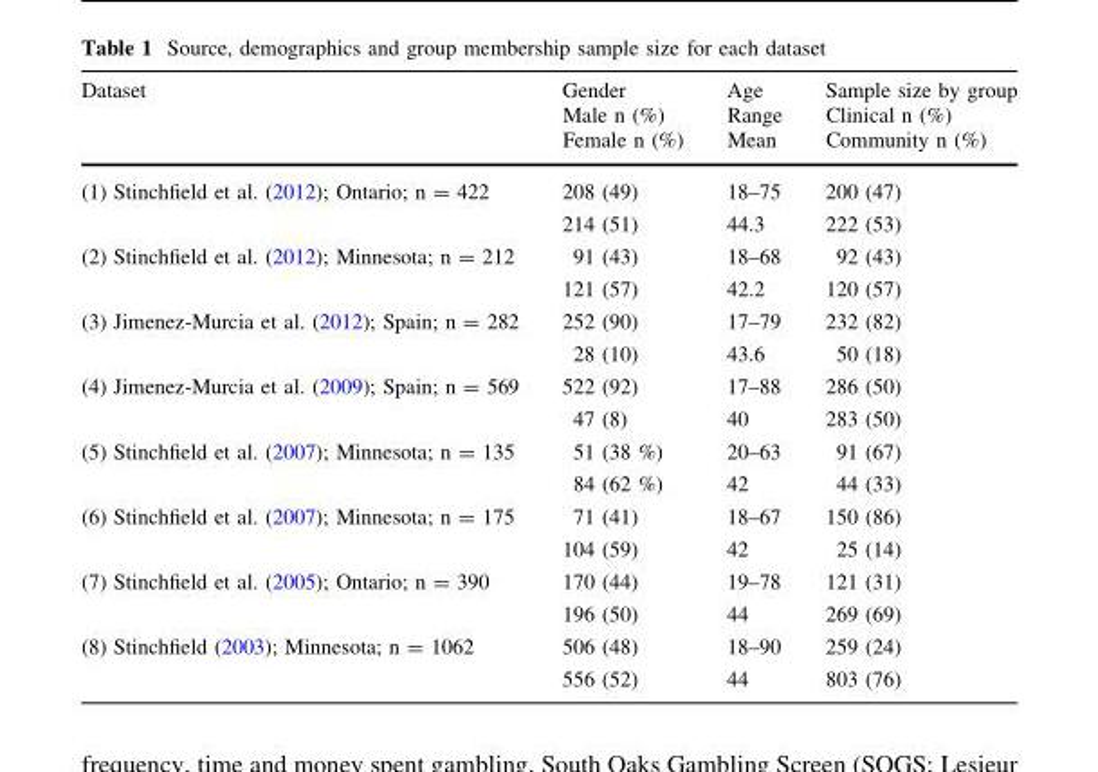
<table><thead><tr><td>Dataset</td><td>Gender Male n (%) Female n (%)</td><td>Age Range Mean</td><td>Sample size by group Clinical n (%) Community n (%)</td></tr></thead><tbody><tr><td rowspan="2">(1) Stinchfield et al. (2012); Ontario; n = 422</td><td>208 (49)</td><td>18–75</td><td>200 (47)</td></tr><tr><td>214 (51)</td><td>44.3</td><td>222 (53)</td></tr><tr><td rowspan="2">(2) Stinchfield et al. (2012); Minnesota; n = 212</td><td>91 (43)</td><td>18–68</td><td>92 (43)</td></tr><tr><td>121 (57)</td><td>42.2</td><td>120 (57)</td></tr><tr><td rowspan="2">(3) Jimenez-Murcia et al. (2012); Spain; n = 282</td><td>252 (90)</td><td>17–79</td><td>232 (82)</td></tr><tr><td>28 (10)</td><td>43.6</td><td>50 (18)</td></tr><tr><td rowspan="2">(4) Jimenez-Murcia et al. (2009); Spain; n = 569</td><td>522 (92)</td><td>17–88</td><td>286 (50)</td></tr><tr><td>47 (8)</td><td>40</td><td>283 (50)</td></tr><tr><td rowspan="2">(5) Stinchfield et al. (2007); Minnesota; n = 135</td><td>51 (38 %)</td><td>20–63</td><td>91 (67)</td></tr><tr><td>84 (62 %)</td><td>42</td><td>44 (33)</td></tr><tr><td rowspan="2">(6) Stinchfield et al. (2007); Minnesota; n = 175</td><td>71 (41)</td><td>18–67</td><td>150 (86)</td></tr><tr><td>104 (59)</td><td>42</td><td>25 (14)</td></tr><tr><td rowspan="2">(7) Stinchfield et al. (2005); Ontario; n = 390</td><td>170 (44)</td><td>19–78</td><td>121 (31)</td></tr><tr><td>196 (50)</td><td>44</td><td>269 (69)</td></tr><tr><td rowspan="2">(8) Stinchfield (2003); Minnesota; n = 1062</td><td>506 (48)</td><td>18–90</td><td>259 (24)</td></tr><tr><td>556 (52)</td><td>44</td><td>803 (76)</td></tr></tbody></table>